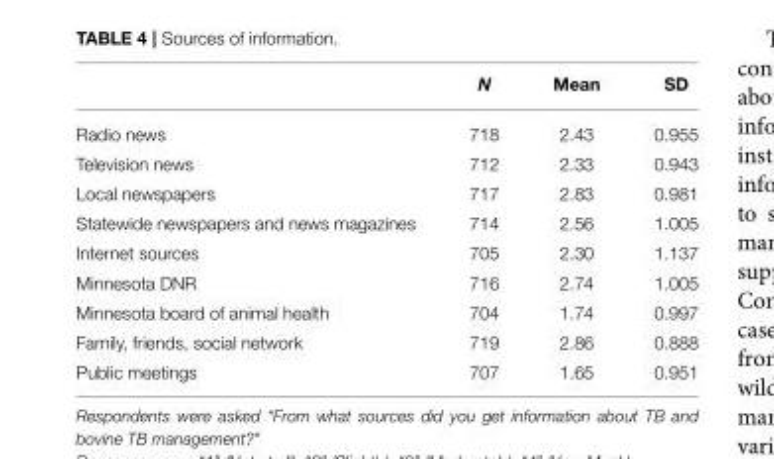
<table><thead><tr><td></td><td>N</td><td>Mean</td><td>SD</td></tr></thead><tbody><tr><td>Radio news</td><td>718</td><td>2.43</td><td>0.955</td></tr><tr><td>Television news</td><td>712</td><td>2.33</td><td>0.943</td></tr><tr><td>Local newspapers</td><td>717</td><td>2.83</td><td>0.981</td></tr><tr><td>Statewide newspapers and news magazines</td><td>714</td><td>2.56</td><td>1.005</td></tr><tr><td>Internet sources</td><td>705</td><td>2.30</td><td>1.137</td></tr><tr><td>Minnesota DNR</td><td>716</td><td>2.74</td><td>1.005</td></tr><tr><td>Minnesota board of animal health</td><td>704</td><td>1.74</td><td>0.997</td></tr><tr><td>Family, friends, social network</td><td>719</td><td>2.86</td><td>0.888</td></tr><tr><td>Public meetings</td><td>707</td><td>1.65</td><td>0.951</td></tr></tbody></table>